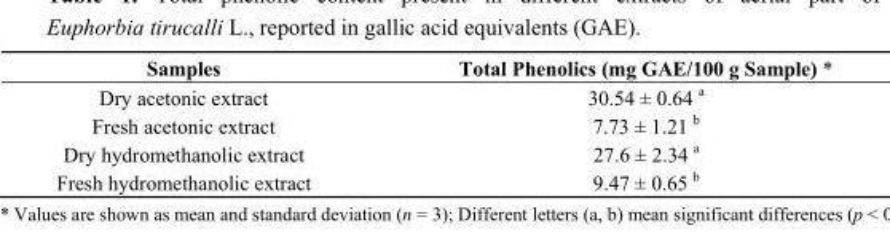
<table><thead><tr><td>Samples</td><td>Total Phenolics (mg GAE/100 g Sample) *</td></tr></thead><tbody><tr><td>Dry acetonic extract</td><td>30.54 ± 0.64 <sup>a</sup></td></tr><tr><td>Fresh acetonic extract</td><td>7.73 ± 1.21 <sup>b</sup></td></tr><tr><td>Dry hydromethanolic extract</td><td>27.6 ± 2.34 <sup>a</sup></td></tr><tr><td>Fresh hydromethanolic extract</td><td>9.47 ± 0.65 <sup>b</sup></td></tr></tbody></table>